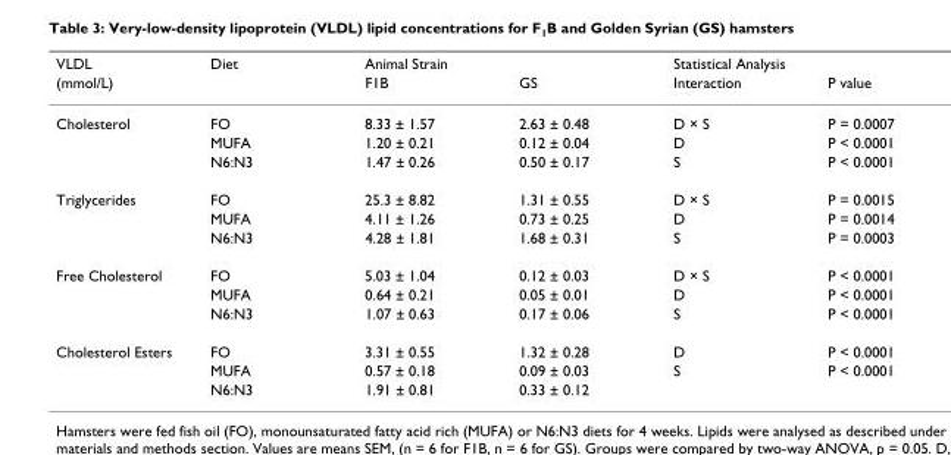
<table><thead><tr><td rowspan="2">VLDL (mmol/L)</td><td rowspan="2">Diet</td><td colspan="2">Animal Strain</td><td colspan="2">Statistical Analysis</td></tr><tr><td>F1B</td><td>GS</td><td>Interaction</td><td>P value</td></tr></thead><tbody><tr><td rowspan="3">Cholesterol</td><td>FO</td><td>8.33 ± 1.57</td><td>2.63 ± 0.48</td><td>D × S</td><td>P = 0.0007</td></tr><tr><td>MUFA</td><td>1.20 ± 0.21</td><td>0.12 ± 0.04</td><td>D</td><td>P &lt; 0.0001</td></tr><tr><td>N6:N3</td><td>1.47 ± 0.26</td><td>0.50 ± 0.17</td><td>S</td><td>P &lt; 0.0001</td></tr><tr><td rowspan="3">Triglycerides</td><td>FO</td><td>25.3 ± 8.82</td><td>1.31 ± 0.55</td><td>D × S</td><td>P = 0.0015</td></tr><tr><td>MUFA</td><td>4.11 ± 1.26</td><td>0.73 ± 0.25</td><td>D</td><td>P = 0.0014</td></tr><tr><td>N6:N3</td><td>4.28 ± 1.81</td><td>1.68 ± 0.31</td><td>S</td><td>P = 0.0003</td></tr><tr><td rowspan="3">Free Cholesterol</td><td>FO</td><td>5.03 ± 1.04</td><td>0.12 ± 0.03</td><td>D × S</td><td>P &lt; 0.0001</td></tr><tr><td>MUFA</td><td>0.64 ± 0.21</td><td>0.05 ± 0.01</td><td>D</td><td>P &lt; 0.0001</td></tr><tr><td>N6:N3</td><td>1.07 ± 0.63</td><td>0.17 ± 0.06</td><td>S</td><td>P &lt; 0.0001</td></tr><tr><td rowspan="3">Cholesterol Esters</td><td>FO</td><td>3.31 ± 0.55</td><td>1.32 ± 0.28</td><td>D</td><td>P &lt; 0.0001</td></tr><tr><td>MUFA</td><td>0.57 ± 0.18</td><td>0.09 ± 0.03</td><td>S</td><td>P &lt; 0.0001</td></tr><tr><td>N6:N3</td><td>1.91 ± 0.81</td><td>0.33 ± 0.12</td><td></td><td></td></tr></tbody></table>